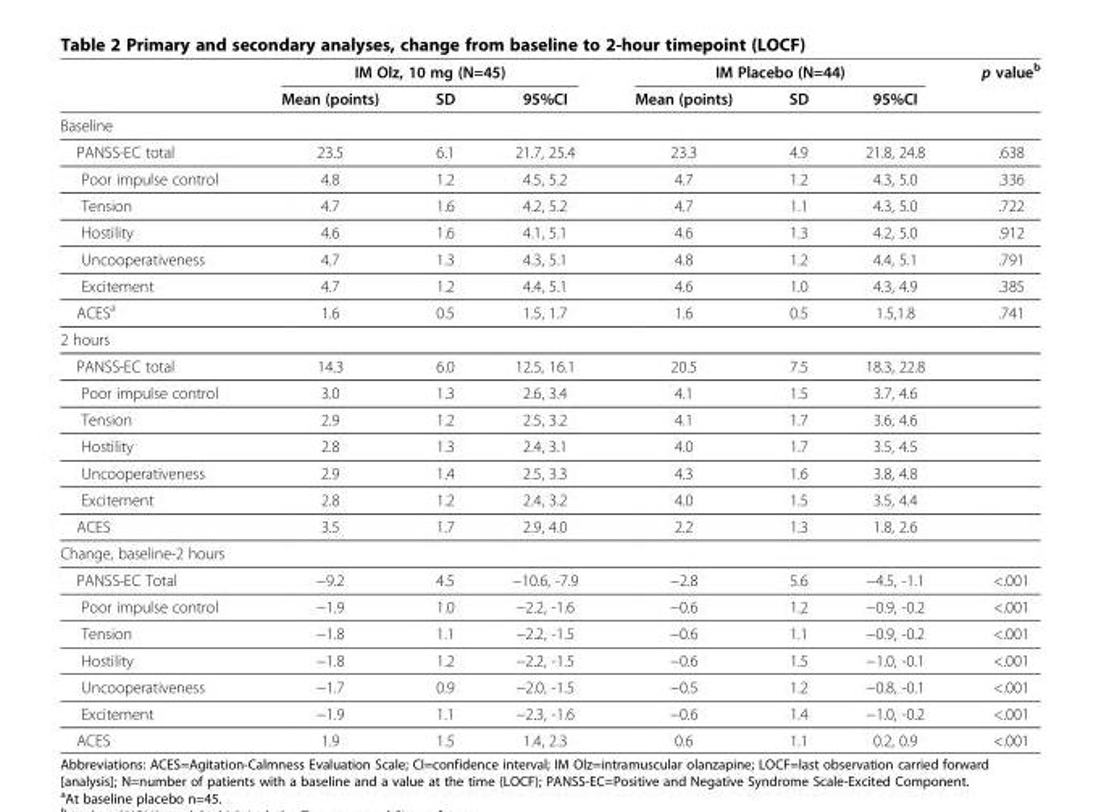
<table><thead><tr><td rowspan="2"></td><td colspan="3">IM Olz, 10 mg (N=45)</td><td colspan="3">IM Placebo (N=44)</td><td rowspan="2">p value<sup>b</sup></td></tr><tr><td>Mean (points)</td><td>SD</td><td>95%CI</td><td>Mean (points)</td><td>SD</td><td>95%CI</td></tr></thead><tbody><tr><td colspan="8">Baseline</td></tr><tr><td>PANSS-EC total</td><td>23.5</td><td>6.1</td><td>21.7, 25.4</td><td>23.3</td><td>4.9</td><td>21.8, 24.8</td><td>.638</td></tr><tr><td>Poor impulse control</td><td>4.8</td><td>1.2</td><td>4.5, 5.2</td><td>4.7</td><td>1.2</td><td>4.3, 5.0</td><td>.336</td></tr><tr><td>Tension</td><td>4.7</td><td>1.6</td><td>4.2, 5.2</td><td>4.7</td><td>1.1</td><td>4.3, 5.0</td><td>.722</td></tr><tr><td>Hostility</td><td>4.6</td><td>1.6</td><td>4.1, 5.1</td><td>4.6</td><td>1.3</td><td>4.2, 5.0</td><td>.912</td></tr><tr><td>Uncooperativeness</td><td>4.7</td><td>1.3</td><td>4.3, 5.1</td><td>4.8</td><td>1.2</td><td>4.4, 5.1</td><td>.791</td></tr><tr><td>Excitement</td><td>4.7</td><td>1.2</td><td>4.4, 5.1</td><td>4.6</td><td>1.0</td><td>4.3, 4.9</td><td>.385</td></tr><tr><td>ACES<sup>a</sup></td><td>1.6</td><td>0.5</td><td>1.5, 1.7</td><td>1.6</td><td>0.5</td><td>1.5,1.8</td><td>.741</td></tr><tr><td colspan="8">2 hours</td></tr><tr><td>PANSS-EC total</td><td>14.3</td><td>6.0</td><td>12.5, 16.1</td><td>20.5</td><td>7.5</td><td>18.3, 22.8</td><td></td></tr><tr><td>Poor impulse control</td><td>3.0</td><td>1.3</td><td>2.6, 3.4</td><td>4.1</td><td>1.5</td><td>3.7, 4.6</td><td></td></tr><tr><td>Tension</td><td>2.9</td><td>1.2</td><td>2.5, 3.2</td><td>4.1</td><td>1.7</td><td>3.6, 4.6</td><td></td></tr><tr><td>Hostility</td><td>2.8</td><td>1.3</td><td>2.4, 3.1</td><td>4.0</td><td>1.7</td><td>3.5, 4.5</td><td></td></tr><tr><td>Uncooperativeness</td><td>2.9</td><td>1.4</td><td>2.5, 3.3</td><td>4.3</td><td>1.6</td><td>3.8, 4.8</td><td></td></tr><tr><td>Excitement</td><td>2.8</td><td>1.2</td><td>2.4, 3.2</td><td>4.0</td><td>1.5</td><td>3.5, 4.4</td><td></td></tr><tr><td>ACES</td><td>3.5</td><td>1.7</td><td>2.9, 4.0</td><td>2.2</td><td>1.3</td><td>1.8, 2.6</td><td></td></tr><tr><td colspan="8">Change, baseline-2 hours</td></tr><tr><td>PANSS-EC Total</td><td>−9.2</td><td>4.5</td><td>−10.6, -7.9</td><td>−2.8</td><td>5.6</td><td>−4.5, -1.1</td><td>&lt;.001</td></tr><tr><td>Poor impulse control</td><td>−1.9</td><td>1.0</td><td>−2.2, -1.6</td><td>−0.6</td><td>1.2</td><td>−0.9, -0.2</td><td>&lt;.001</td></tr><tr><td>Tension</td><td>−1.8</td><td>1.1</td><td>−2.2, -1.5</td><td>−0.6</td><td>1.1</td><td>−0.9, -0.2</td><td>&lt;.001</td></tr><tr><td>Hostility</td><td>−1.8</td><td>1.2</td><td>−2.2, -1.5</td><td>−0.6</td><td>1.5</td><td>−1.0, -0.1</td><td>&lt;.001</td></tr><tr><td>Uncooperativeness</td><td>−1.7</td><td>0.9</td><td>−2.0, -1.5</td><td>−0.5</td><td>1.2</td><td>−0.8, -0.1</td><td>&lt;.001</td></tr><tr><td>Excitement</td><td>−1.9</td><td>1.1</td><td>−2.3, -1.6</td><td>−0.6</td><td>1.4</td><td>−1.0, -0.2</td><td>&lt;.001</td></tr><tr><td>ACES</td><td>1.9</td><td>1.5</td><td>1.4, 2.3</td><td>0.6</td><td>1.1</td><td>0.2, 0.9</td><td>&lt;.001</td></tr></tbody></table>